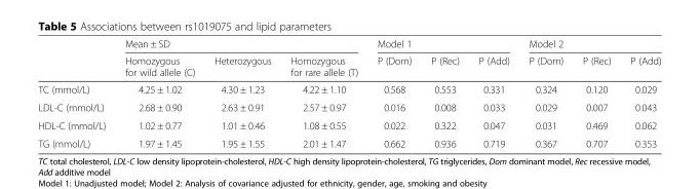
<table><thead><tr><td rowspan="2"></td><td colspan="3">Mean ± SD</td><td colspan="3">Model 1</td><td colspan="3">Model 2</td></tr><tr><td>Homozygous for wild allele (C)</td><td>Heterozygous</td><td>Homozygous for rare allele (T)</td><td>P (Dom)</td><td>P (Rec)</td><td>P (Add)</td><td>P (Dom)</td><td>P (Rec)</td><td>P (Add)</td></tr></thead><tbody><tr><td>TC (mmol/L)</td><td>4.25 ± 1.02</td><td>4.30 ± 1.23</td><td>4.22 ± 1.10</td><td>0.568</td><td>0.553</td><td>0.331</td><td>0.324</td><td>0.120</td><td>0.029</td></tr><tr><td>LDL-C (mmol/L)</td><td>2.68 ± 0.90</td><td>2.63 ± 0.91</td><td>2.57 ± 0.97</td><td>0.016</td><td>0.008</td><td>0.033</td><td>0.029</td><td>0.007</td><td>0.043</td></tr><tr><td>HDL-C (mmol/L)</td><td>1.02 ± 0.77</td><td>1.01 ± 0.46</td><td>1.08 ± 0.55</td><td>0.022</td><td>0.322</td><td>0.047</td><td>0.031</td><td>0.469</td><td>0.062</td></tr><tr><td>TG (mmol/L)</td><td>1.97 ± 1.45</td><td>1.95 ± 1.55</td><td>2.01 ± 1.47</td><td>0.662</td><td>0.936</td><td>0.719</td><td>0.367</td><td>0.707</td><td>0.353</td></tr></tbody></table>